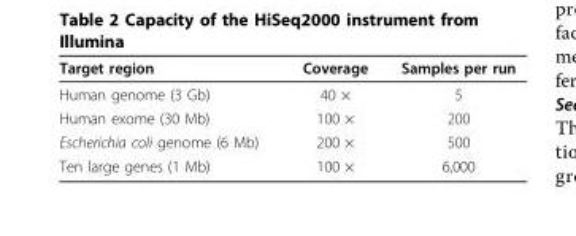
<table><thead><tr><td>Target region</td><td>Coverage</td><td>Samples per run</td></tr></thead><tbody><tr><td>Human genome (3 Gb)</td><td>40 ×</td><td>5</td></tr><tr><td>Human exome (30 Mb)</td><td>100 ×</td><td>200</td></tr><tr><td>Escherichia coli genome (6 Mb)</td><td>200 ×</td><td>500</td></tr><tr><td>Ten large genes (1 Mb)</td><td>100 ×</td><td>6,000</td></tr></tbody></table>